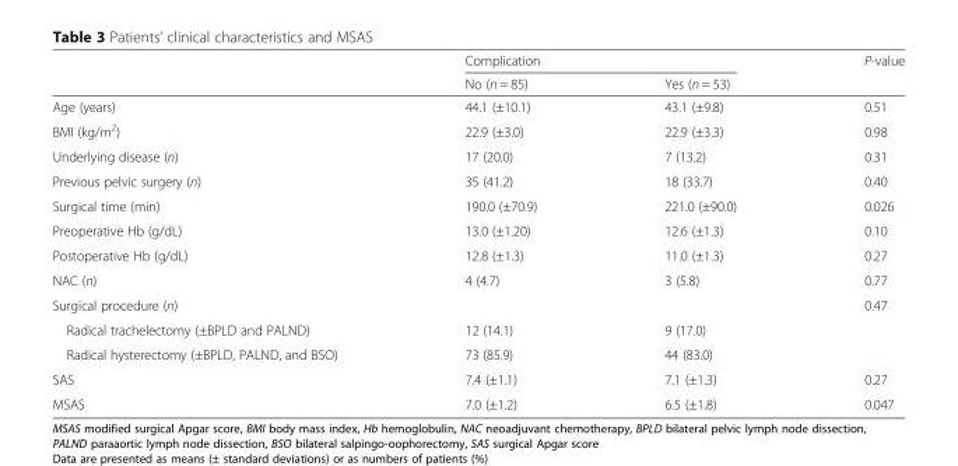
<table><thead><tr><td rowspan="2"></td><td colspan="2">Complication</td><td rowspan="2">P-value</td></tr><tr><td>No (n = 85)</td><td>Yes (n = 53)</td></tr></thead><tbody><tr><td>Age (years)</td><td>44.1 (±10.1)</td><td>43.1 (±9.8)</td><td>0.51</td></tr><tr><td>BMI (kg/m<sup>2</sup>)</td><td>22.9 (±3.0)</td><td>22.9 (±3.3)</td><td>0.98</td></tr><tr><td>Underlying disease (n)</td><td>17 (20.0)</td><td>7 (13.2)</td><td>0.31</td></tr><tr><td>Previous pelvic surgery (n)</td><td>35 (41.2)</td><td>18 (33.7)</td><td>0.40</td></tr><tr><td>Surgical time (min)</td><td>190.0 (±70.9)</td><td>221.0 (±90.0)</td><td>0.026</td></tr><tr><td>Preoperative Hb (g/dL)</td><td>13.0 (±1.20)</td><td>12.6 (±1.3)</td><td>0.10</td></tr><tr><td>Postoperative Hb (g/dL)</td><td>12.8 (±1.3)</td><td>11.0 (±1.3)</td><td>0.27</td></tr><tr><td>NAC (n)</td><td>4 (4.7)</td><td>3 (5.8)</td><td>0.77</td></tr><tr><td>Surgical procedure (n)</td><td></td><td></td><td>0.47</td></tr><tr><td>Radical trachelectomy (±BPLD and PALND)</td><td>12 (14.1)</td><td>9 (17.0)</td><td></td></tr><tr><td>Radical hysterectomy (±BPLD, PALND, and BSO)</td><td>73 (85.9)</td><td>44 (83.0)</td><td></td></tr><tr><td>SAS</td><td>7.4 (±1.1)</td><td>7.1 (±1.3)</td><td>0.27</td></tr><tr><td>MSAS</td><td>7.0 (±1.2)</td><td>6.5 (±1.8)</td><td>0.047</td></tr></tbody></table>